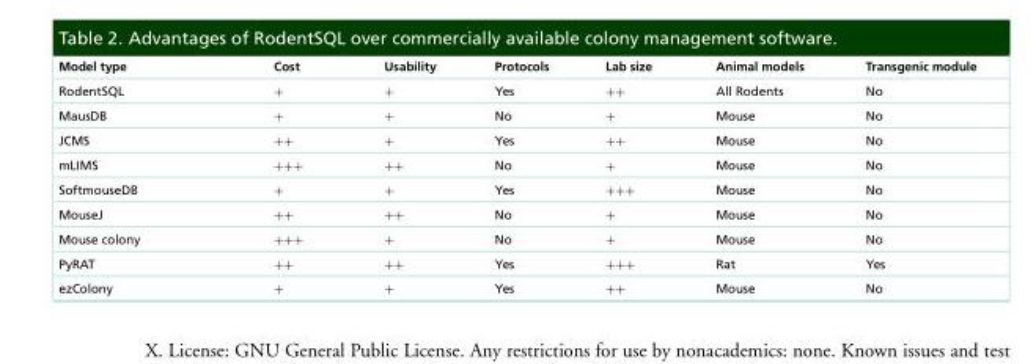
<table><tbody><tr><td>Model type</td><td>Cost</td><td>Usability</td><td>Protocols</td><td>Lab size</td><td>Animal models</td><td>Transgenic module</td></tr><tr><td>RodentSQL</td><td>+</td><td>+</td><td>Yes</td><td>++</td><td>All Rodents</td><td>No</td></tr><tr><td>MausDB</td><td>+</td><td>+</td><td>No</td><td>+</td><td>Mouse</td><td>No</td></tr><tr><td>JCMS</td><td>++</td><td>+</td><td>Yes</td><td>++</td><td>Mouse</td><td>No</td></tr><tr><td>mLIMS</td><td>+++</td><td>++</td><td>No</td><td>+</td><td>Mouse</td><td>No</td></tr><tr><td>SoftmouseDB</td><td>+</td><td>+</td><td>Yes</td><td>+++</td><td>Mouse</td><td>No</td></tr><tr><td>MouseJ</td><td>++</td><td>++</td><td>No</td><td>+</td><td>Mouse</td><td>No</td></tr><tr><td>Mouse colony</td><td>+++</td><td>+</td><td>No</td><td>+</td><td>Mouse</td><td>No</td></tr><tr><td>PyRAT</td><td>++</td><td>++</td><td>Yes</td><td>+++</td><td>Rat</td><td>Yes</td></tr><tr><td>ezColony</td><td>+</td><td>+</td><td>Yes</td><td>++</td><td>Mouse</td><td>No</td></tr></tbody></table>